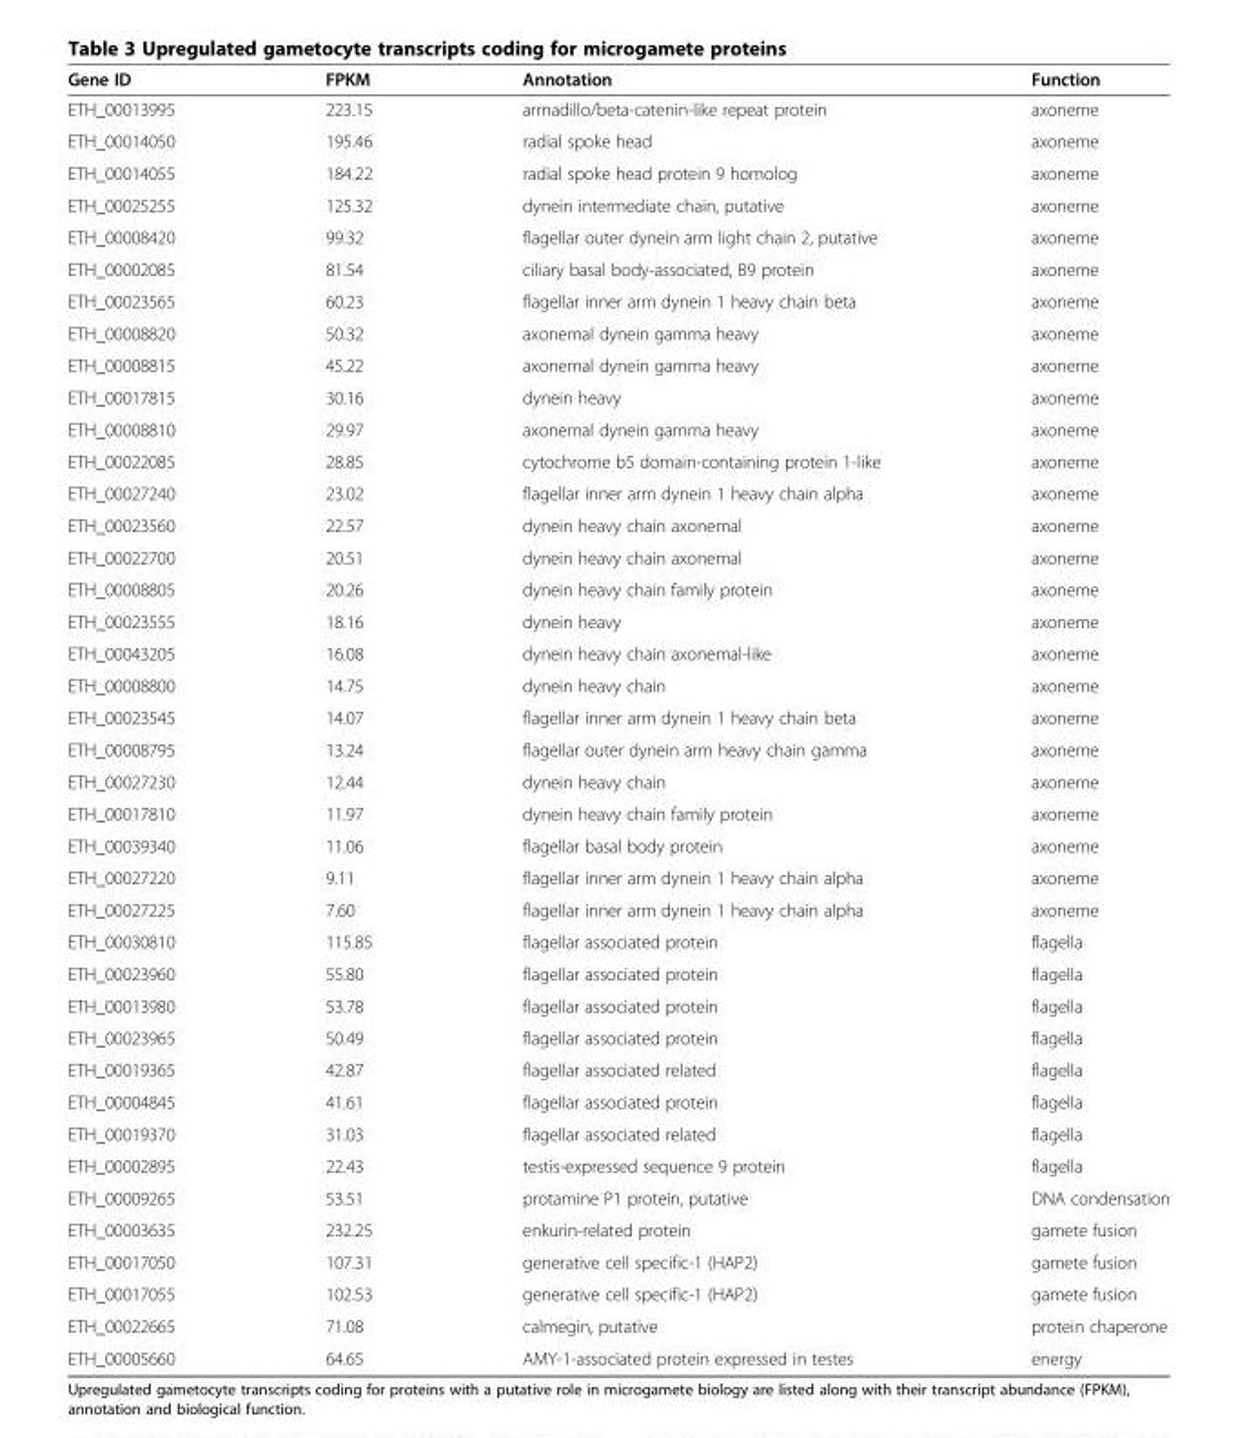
<table><thead><tr><td>Gene ID</td><td>FPKM</td><td>Annotation</td><td>Function</td></tr></thead><tbody><tr><td>ETH_00013995</td><td>223.15</td><td>armadillo/beta-catenin-like repeat protein</td><td>axoneme</td></tr><tr><td>ETH_00014050</td><td>195.46</td><td>radial spoke head</td><td>axoneme</td></tr><tr><td>ETH_00014055</td><td>184.22</td><td>radial spoke head protein 9 homolog</td><td>axoneme</td></tr><tr><td>ETH_00025255</td><td>125.32</td><td>dynein intermediate chain, putative</td><td>axoneme</td></tr><tr><td>ETH_00008420</td><td>99.32</td><td>flagellar outer dynein arm light chain 2, putative</td><td>axoneme</td></tr><tr><td>ETH_00002085</td><td>81.54</td><td>ciliary basal body-associated, B9 protein</td><td>axoneme</td></tr><tr><td>ETH_00023565</td><td>60.23</td><td>flagellar inner arm dynein 1 heavy chain beta</td><td>axoneme</td></tr><tr><td>ETH_00008820</td><td>50.32</td><td>axonemal dynein gamma heavy</td><td>axoneme</td></tr><tr><td>ETH_00008815</td><td>45.22</td><td>axonemal dynein gamma heavy</td><td>axoneme</td></tr><tr><td>ETH_00017815</td><td>30.16</td><td>dynein heavy</td><td>axoneme</td></tr><tr><td>ETH_00008810</td><td>29.97</td><td>axonemal dynein gamma heavy</td><td>axoneme</td></tr><tr><td>ETH_00022085</td><td>28.85</td><td>cytochrome b5 domain-containing protein 1-like</td><td>axoneme</td></tr><tr><td>ETH_00027240</td><td>23.02</td><td>flagellar inner arm dynein 1 heavy chain alpha</td><td>axoneme</td></tr><tr><td>ETH_00023560</td><td>22.57</td><td>dynein heavy chain axonemal</td><td>axoneme</td></tr><tr><td>ETH_00022700</td><td>20.51</td><td>dynein heavy chain axonemal</td><td>axoneme</td></tr><tr><td>ETH_00008805</td><td>20.26</td><td>dynein heavy chain family protein</td><td>axoneme</td></tr><tr><td>ETH_00023555</td><td>18.16</td><td>dynein heavy</td><td>axoneme</td></tr><tr><td>ETH_00043205</td><td>16.08</td><td>dynein heavy chain axonemal-like</td><td>axoneme</td></tr><tr><td>ETH_00008800</td><td>14.75</td><td>dynein heavy chain</td><td>axoneme</td></tr><tr><td>ETH_00023545</td><td>14.07</td><td>flagellar inner arm dynein 1 heavy chain beta</td><td>axoneme</td></tr><tr><td>ETH_00008795</td><td>13.24</td><td>flagellar outer dynein arm heavy chain gamma</td><td>axoneme</td></tr><tr><td>ETH_00027230</td><td>12.44</td><td>dynein heavy chain</td><td>axoneme</td></tr><tr><td>ETH_00017810</td><td>11.97</td><td>dynein heavy chain family protein</td><td>axoneme</td></tr><tr><td>ETH_00039340</td><td>11.06</td><td>flagellar basal body protein</td><td>axoneme</td></tr><tr><td>ETH_00027220</td><td>9.11</td><td>flagellar inner arm dynein 1 heavy chain alpha</td><td>axoneme</td></tr><tr><td>ETH_00027225</td><td>7.60</td><td>flagellar inner arm dynein 1 heavy chain alpha</td><td>axoneme</td></tr><tr><td>ETH_00030810</td><td>115.85</td><td>flagellar associated protein</td><td>flagella</td></tr><tr><td>ETH_00023960</td><td>55.80</td><td>flagellar associated protein</td><td>flagella</td></tr><tr><td>ETH_00013980</td><td>53.78</td><td>flagellar associated protein</td><td>flagella</td></tr><tr><td>ETH_00023965</td><td>50.49</td><td>flagellar associated protein</td><td>flagella</td></tr><tr><td>ETH_00019365</td><td>42.87</td><td>flagellar associated related</td><td>flagella</td></tr><tr><td>ETH_00004845</td><td>41.61</td><td>flagellar associated protein</td><td>flagella</td></tr><tr><td>ETH_00019370</td><td>31.03</td><td>flagellar associated related</td><td>flagella</td></tr><tr><td>ETH_00002895</td><td>22.43</td><td>testis-expressed sequence 9 protein</td><td>flagella</td></tr><tr><td>ETH_00009265</td><td>53.51</td><td>protamine P1 protein, putative</td><td>DNA condensation</td></tr><tr><td>ETH_00003635</td><td>232.25</td><td>enkurin-related protein</td><td>gamete fusion</td></tr><tr><td>ETH_00017050</td><td>107.31</td><td>generative cell specific-1 (HAP2)</td><td>gamete fusion</td></tr><tr><td>ETH_00017055</td><td>102.53</td><td>generative cell specific-1 (HAP2)</td><td>gamete fusion</td></tr><tr><td>ETH_00022665</td><td>71.08</td><td>calmegin, putative</td><td>protein chaperone</td></tr><tr><td>ETH_00005660</td><td>64.65</td><td>AMY-1-associated protein expressed in testes</td><td>energy</td></tr></tbody></table>